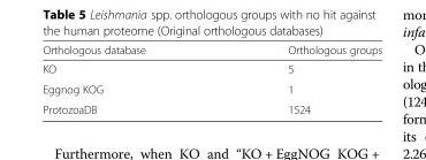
<table><thead><tr><td>Orthologous database</td><td>Orthologous groups</td></tr></thead><tbody><tr><td>KO</td><td>5</td></tr><tr><td>Eggnog KOG</td><td>1</td></tr><tr><td>ProtozoaDB</td><td>1524</td></tr></tbody></table>